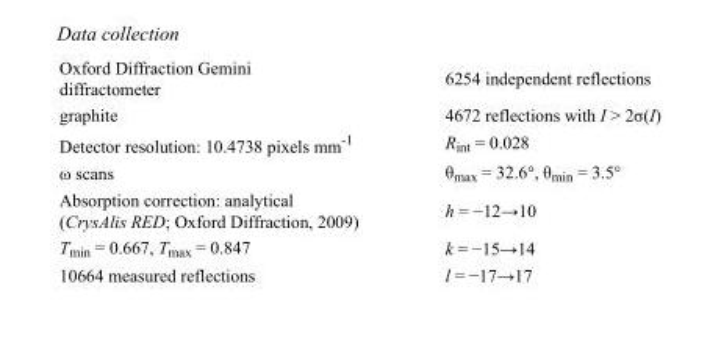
<table><tbody><tr><td>Oxford Diffraction Gemini diffractometer</td><td>6254 independent reflections</td></tr><tr><td>graphite</td><td>4672 reflections with I &gt; 2σ(I)</td></tr><tr><td>Detector resolution: 10.4738 pixels mm<sup>-1</sup></td><td>R<sub>int</sub> = 0.028</td></tr><tr><td>ω scans</td><td>θ<sub>max</sub> = 32.6°, θ<sub>min</sub> = 3.5°</td></tr><tr><td>Absorption correction: analytical (CrysAlis RED; Oxford Diffraction, 2009)</td><td>h = −12→10</td></tr><tr><td>T<sub>min</sub> = 0.667, T<sub>max</sub> = 0.847</td><td>k = −15→14</td></tr><tr><td>10664 measured reflections</td><td>l = −17→17</td></tr></tbody></table>